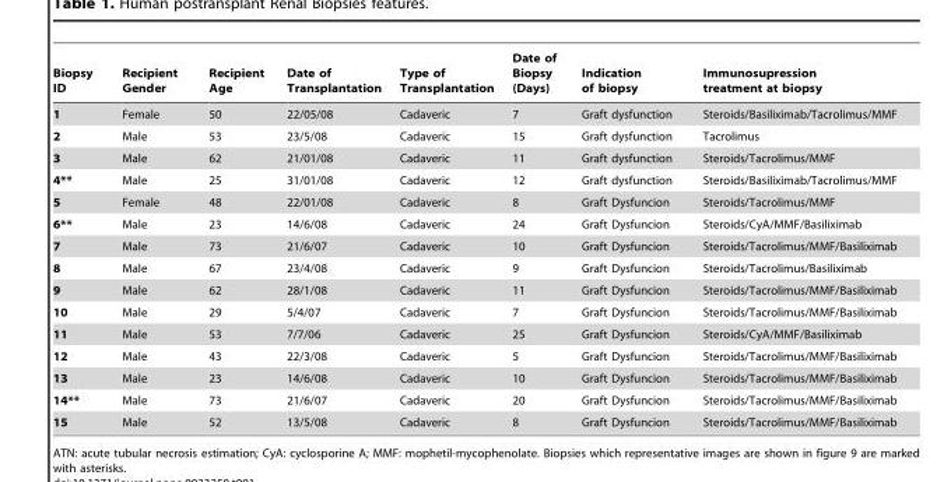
<table><thead><tr><td>Biopsy ID</td><td>Recipient Gender</td><td>Recipient Age</td><td>Date of Transplantation</td><td>Type of Transplantation</td><td>Date of Biopsy (Days)</td><td>Indication of biopsy</td><td>Immunosupression treatment at biopsy</td></tr></thead><tbody><tr><td>1</td><td>Female</td><td>50</td><td>22/05/08</td><td>Cadaveric</td><td>7</td><td>Graft dysfunction</td><td>Steroids/Basiliximab/Tacrolimus/MMF</td></tr><tr><td>2</td><td>Male</td><td>53</td><td>23/5/08</td><td>Cadaveric</td><td>15</td><td>Graft dysfunction</td><td>Tacrolimus</td></tr><tr><td>3</td><td>Male</td><td>62</td><td>21/01/08</td><td>Cadaveric</td><td>11</td><td>Graft dysfunction</td><td>Steroids/Tacrolimus/MMF</td></tr><tr><td>4**</td><td>Male</td><td>25</td><td>31/01/08</td><td>Cadaveric</td><td>12</td><td>Graft dysfunction</td><td>Steroids/Basiliximab/Tacrolimus/MMF</td></tr><tr><td>5</td><td>Female</td><td>48</td><td>22/01/08</td><td>Cadaveric</td><td>8</td><td>Graft Dysfuncion</td><td>Steroids/Tacrolimus/MMF</td></tr><tr><td>6**</td><td>Male</td><td>23</td><td>14/6/08</td><td>Cadaveric</td><td>24</td><td>Graft Dysfuncion</td><td>Steroids/CyA/MMF/Basiliximab</td></tr><tr><td>7</td><td>Male</td><td>73</td><td>21/6/07</td><td>Cadaveric</td><td>10</td><td>Graft Dysfuncion</td><td>Steroids/Tacrolimus/MMF/Basiliximab</td></tr><tr><td>8</td><td>Male</td><td>67</td><td>23/4/08</td><td>Cadaveric</td><td>9</td><td>Graft Dysfuncion</td><td>Steroids/Tacrolimus/Basiliximab</td></tr><tr><td>9</td><td>Male</td><td>62</td><td>28/1/08</td><td>Cadaveric</td><td>11</td><td>Graft Dysfuncion</td><td>Steroids/Tacrolimus/MMF/Basiliximab</td></tr><tr><td>10</td><td>Male</td><td>29</td><td>5/4/07</td><td>Cadaveric</td><td>7</td><td>Graft Dysfuncion</td><td>Steroids/Tacrolimus/MMF/Basiliximab</td></tr><tr><td>11</td><td>Male</td><td>53</td><td>7/7/06</td><td>Cadaveric</td><td>25</td><td>Graft Dysfuncion</td><td>Steroids/CyA/MMF/Basiliximab</td></tr><tr><td>12</td><td>Male</td><td>43</td><td>22/3/08</td><td>Cadaveric</td><td>5</td><td>Graft Dysfuncion</td><td>Steroids/Tacrolimus/MMF/Basiliximab</td></tr><tr><td>13</td><td>Male</td><td>23</td><td>14/6/08</td><td>Cadaveric</td><td>10</td><td>Graft Dysfuncion</td><td>Steroids/Tacrolimus/MMF/Basiliximab</td></tr><tr><td>14**</td><td>Male</td><td>73</td><td>21/6/07</td><td>Cadaveric</td><td>20</td><td>Graft Dysfuncion</td><td>Steroids/Tacrolimus/MMF/Basiliximab</td></tr><tr><td>15</td><td>Male</td><td>52</td><td>13/5/08</td><td>Cadaveric</td><td>8</td><td>Graft Dysfuncion</td><td>Steroids/Tacrolimus/MMF/Basiliximab</td></tr></tbody></table>